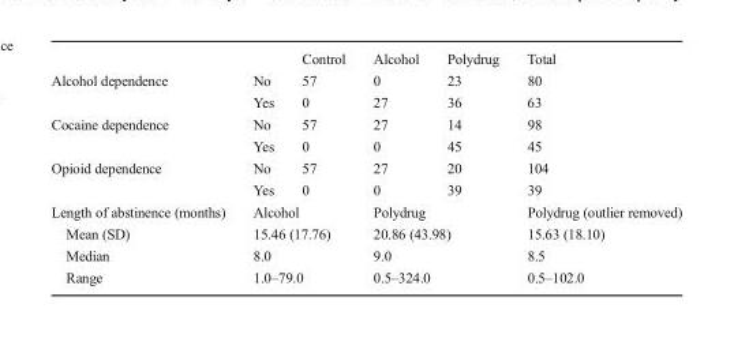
<table><thead><tr><td></td><td></td><td>Control</td><td>Alcohol</td><td>Polydrug</td><td>Total</td></tr></thead><tbody><tr><td rowspan="2">Alcohol dependence</td><td>No</td><td>57</td><td>0</td><td>23</td><td>80</td></tr><tr><td>Yes</td><td>0</td><td>27</td><td>36</td><td>63</td></tr><tr><td rowspan="2">Cocaine dependence</td><td>No</td><td>57</td><td>27</td><td>14</td><td>98</td></tr><tr><td>Yes</td><td>0</td><td>0</td><td>45</td><td>45</td></tr><tr><td rowspan="2">Opioid dependence</td><td>No</td><td>57</td><td>27</td><td>20</td><td>104</td></tr><tr><td>Yes</td><td>0</td><td>0</td><td>39</td><td>39</td></tr><tr><td>Length of abstinence (months)</td><td colspan="2">Alcohol</td><td colspan="2">Polydrug</td><td>Polydrug (outlier removed)</td></tr><tr><td>Mean (SD)</td><td colspan="2">15.46 (17.76)</td><td colspan="2">20.86 (43.98)</td><td>15.63 (18.10)</td></tr><tr><td>Median</td><td colspan="2">8.0</td><td colspan="2">9.0</td><td>8.5</td></tr><tr><td>Range</td><td colspan="2">1.0–79.0</td><td colspan="2">0.5–324.0</td><td>0.5–102.0</td></tr></tbody></table>